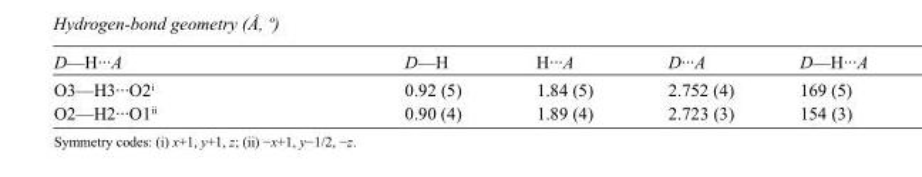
<table><tbody><tr><td>D—H···A</td><td>D—H</td><td>H···A</td><td>D···A</td><td>D—H···A</td></tr><tr><td>O3—H3···O2<sup>i</sup></td><td>0.92 (5)</td><td>1.84 (5)</td><td>2.752 (4)</td><td>169 (5)</td></tr><tr><td>O2—H2···O1<sup>ii</sup></td><td>0.90 (4)</td><td>1.89 (4)</td><td>2.723 (3)</td><td>154 (3)</td></tr></tbody></table>